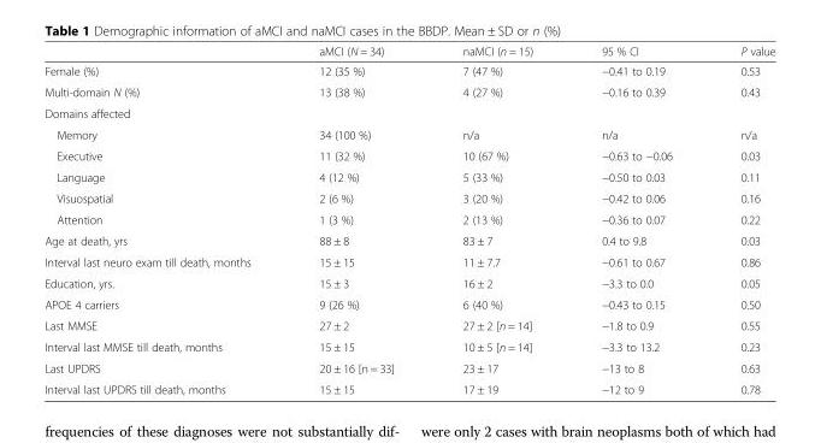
<table><thead><tr><td></td><td>aMCI (N = 34)</td><td>naMCI (n = 15)</td><td>95 % CI</td><td>P value</td></tr></thead><tbody><tr><td>Female (%)</td><td>12 (35 %)</td><td>7 (47 %)</td><td>−0.41 to 0.19</td><td>0.53</td></tr><tr><td>Multi-domain N (%)</td><td>13 (38 %)</td><td>4 (27 %)</td><td>−0.16 to 0.39</td><td>0.43</td></tr><tr><td colspan="5">Domains affected</td></tr><tr><td>Memory</td><td>34 (100 %)</td><td>n/a</td><td>n/a</td><td>n/a</td></tr><tr><td>Executive</td><td>11 (32 %)</td><td>10 (67 %)</td><td>−0.63 to −0.06</td><td>0.03</td></tr><tr><td>Language</td><td>4 (12 %)</td><td>5 (33 %)</td><td>−0.50 to 0.03</td><td>0.11</td></tr><tr><td>Visuospatial</td><td>2 (6 %)</td><td>3 (20 %)</td><td>−0.42 to 0.06</td><td>0.16</td></tr><tr><td>Attention</td><td>1 (3 %)</td><td>2 (13 %)</td><td>−0.36 to 0.07</td><td>0.22</td></tr><tr><td>Age at death, yrs</td><td>88 ± 8</td><td>83 ± 7</td><td>0.4 to 9.8</td><td>0.03</td></tr><tr><td>Interval last neuro exam till death, months</td><td>15 ± 15</td><td>11 ± 7.7</td><td>−0.61 to 0.67</td><td>0.86</td></tr><tr><td>Education, yrs.</td><td>15 ± 3</td><td>16 ± 2</td><td>−3.3 to 0.0</td><td>0.05</td></tr><tr><td>APOE 4 carriers</td><td>9 (26 %)</td><td>6 (40 %)</td><td>−0.43 to 0.15</td><td>0.50</td></tr><tr><td>Last MMSE</td><td>27 ± 2</td><td>27 ± 2 [n = 14]</td><td>−1.8 to 0.9</td><td>0.55</td></tr><tr><td>Interval last MMSE till death, months</td><td>15 ± 15</td><td>10 ± 5 [n = 14]</td><td>−3.3 to 13.2</td><td>0.23</td></tr><tr><td>Last UPDRS</td><td>20 ± 16 [n = 33]</td><td>23 ± 17</td><td>−13 to 8</td><td>0.63</td></tr><tr><td>Interval last UPDRS till death, months</td><td>15 ± 15</td><td>17 ± 19</td><td>−12 to 9</td><td>0.78</td></tr></tbody></table>